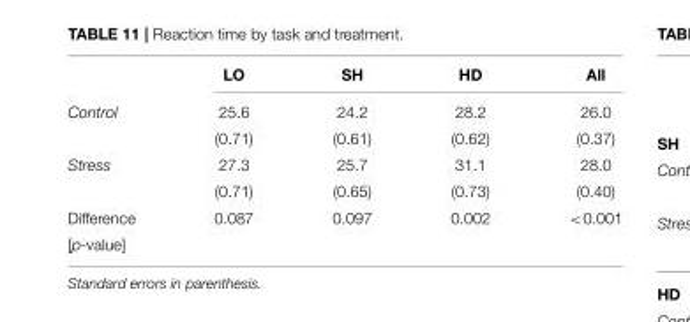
<table><thead><tr><td></td><td>LO</td><td>SH</td><td>HD</td><td>All</td></tr></thead><tbody><tr><td rowspan="2">Control</td><td>25.6</td><td>24.2</td><td>28.2</td><td>26.0</td></tr><tr><td>(0.71)</td><td>(0.61)</td><td>(0.62)</td><td>(0.37)</td></tr><tr><td rowspan="2">Stress</td><td>27.3</td><td>25.7</td><td>31.1</td><td>28.0</td></tr><tr><td>(0.71)</td><td>(0.65)</td><td>(0.73)</td><td>(0.40)</td></tr><tr><td>Difference</td><td>0.087</td><td>0.097</td><td>0.002</td><td>&lt;0.001</td></tr><tr><td>[p-value]</td><td></td><td></td><td></td><td></td></tr></tbody></table>